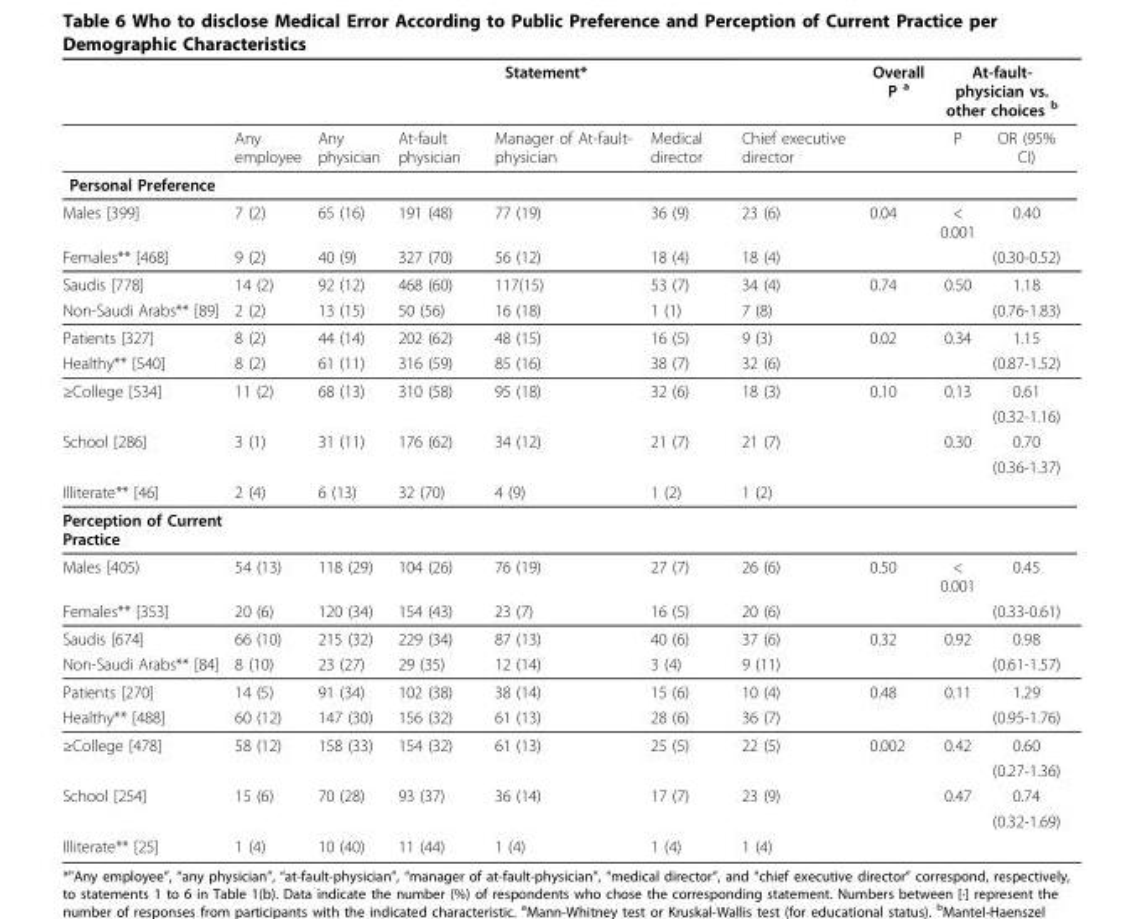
<table><thead><tr><td rowspan="2"></td><td colspan="6">Statement*</td><td rowspan="2">Overall P <sup>a</sup></td><td colspan="2">At-fault- physician vs. other choices <sup>b</sup></td></tr><tr><td>Any employee</td><td>Any physician</td><td>At-fault physician</td><td>Manager of At-fault- physician</td><td>Medical director</td><td>Chief executive director</td><td>P</td><td>OR (95% CI)</td></tr></thead><tbody><tr><td colspan="10">Personal Preference</td></tr><tr><td>Males [399]</td><td>7 (2)</td><td>65 (16)</td><td>191 (48)</td><td>77 (19)</td><td>36 (9)</td><td>23 (6)</td><td>0.04</td><td>&lt; 0.001</td><td>0.40</td></tr><tr><td>Females** [468]</td><td>9 (2)</td><td>40 (9)</td><td>327 (70)</td><td>56 (12)</td><td>18 (4)</td><td>18 (4)</td><td></td><td></td><td>(0.30-0.52)</td></tr><tr><td>Saudis [778]</td><td>14 (2)</td><td>92 (12)</td><td>468 (60)</td><td>117(15)</td><td>53 (7)</td><td>34 (4)</td><td>0.74</td><td>0.50</td><td>1.18</td></tr><tr><td>Non-Saudi Arabs** [89]</td><td>2 (2)</td><td>13 (15)</td><td>50 (56)</td><td>16 (18)</td><td>1 (1)</td><td>7 (8)</td><td></td><td></td><td>(0.76-1.83)</td></tr><tr><td>Patients [327]</td><td>8 (2)</td><td>44 (14)</td><td>202 (62)</td><td>48 (15)</td><td>16 (5)</td><td>9 (3)</td><td>0.02</td><td>0.34</td><td>1.15</td></tr><tr><td>Healthy** [540]</td><td>8 (2)</td><td>61 (11)</td><td>316 (59)</td><td>85 (16)</td><td>38 (7)</td><td>32 (6)</td><td></td><td></td><td>(0.87-1.52)</td></tr><tr><td rowspan="2">≥College [534]</td><td>11 (2)</td><td>68 (13)</td><td>310 (58)</td><td>95 (18)</td><td>32 (6)</td><td>18 (3)</td><td>0.10</td><td>0.13</td><td>0.61</td></tr><tr><td></td><td></td><td></td><td></td><td></td><td></td><td></td><td></td><td>(0.32-1.16)</td></tr><tr><td rowspan="2">School [286]</td><td>3 (1)</td><td>31 (11)</td><td>176 (62)</td><td>34 (12)</td><td>21 (7)</td><td>21 (7)</td><td></td><td>0.30</td><td>0.70</td></tr><tr><td></td><td></td><td></td><td></td><td></td><td></td><td></td><td></td><td>(0.36-1.37)</td></tr><tr><td>Illiterate** [46]</td><td>2 (4)</td><td>6 (13)</td><td>32 (70)</td><td>4 (9)</td><td>1 (2)</td><td>1 (2)</td><td></td><td></td><td></td></tr><tr><td colspan="10">Perception of Current Practice</td></tr><tr><td>Males [405)</td><td>54 (13)</td><td>118 (29)</td><td>104 (26)</td><td>76 (19)</td><td>27 (7)</td><td>26 (6)</td><td>0.50</td><td>&lt; 0.001</td><td>0.45</td></tr><tr><td>Females** [353]</td><td>20 (6)</td><td>120 (34)</td><td>154 (43)</td><td>23 (7)</td><td>16 (5)</td><td>20 (6)</td><td></td><td></td><td>(0.33-0.61)</td></tr><tr><td>Saudis [674]</td><td>66 (10)</td><td>215 (32)</td><td>229 (34)</td><td>87 (13)</td><td>40 (6)</td><td>37 (6)</td><td>0.32</td><td>0.92</td><td>0.98</td></tr><tr><td>Non-Saudi Arabs** [84]</td><td>8 (10)</td><td>23 (27)</td><td>29 (35)</td><td>12 (14)</td><td>3 (4)</td><td>9 (11)</td><td></td><td></td><td>(0.61-1.57)</td></tr><tr><td>Patients [270]</td><td>14 (5)</td><td>91 (34)</td><td>102 (38)</td><td>38 (14)</td><td>15 (6)</td><td>10 (4)</td><td>0.48</td><td>0.11</td><td>1.29</td></tr><tr><td>Healthy** [488]</td><td>60 (12)</td><td>147 (30)</td><td>156 (32)</td><td>61 (13)</td><td>28 (6)</td><td>36 (7)</td><td></td><td></td><td>(0.95-1.76)</td></tr><tr><td rowspan="2">≥College [478]</td><td>58 (12)</td><td>158 (33)</td><td>154 (32)</td><td>61 (13)</td><td>25 (5)</td><td>22 (5)</td><td>0.002</td><td>0.42</td><td>0.60</td></tr><tr><td></td><td></td><td></td><td></td><td></td><td></td><td></td><td></td><td>(0.27-1.36)</td></tr><tr><td rowspan="2">School [254]</td><td>15 (6)</td><td>70 (28)</td><td>93 (37)</td><td>36 (14)</td><td>17 (7)</td><td>23 (9)</td><td></td><td>0.47</td><td>0.74</td></tr><tr><td></td><td></td><td></td><td></td><td></td><td></td><td></td><td></td><td>(0.32-1.69)</td></tr><tr><td>Illiterate** [25]</td><td>1 (4)</td><td>10 (40)</td><td>11 (44)</td><td>1 (4)</td><td>1 (4)</td><td>1 (4)</td><td></td><td></td><td></td></tr></tbody></table>